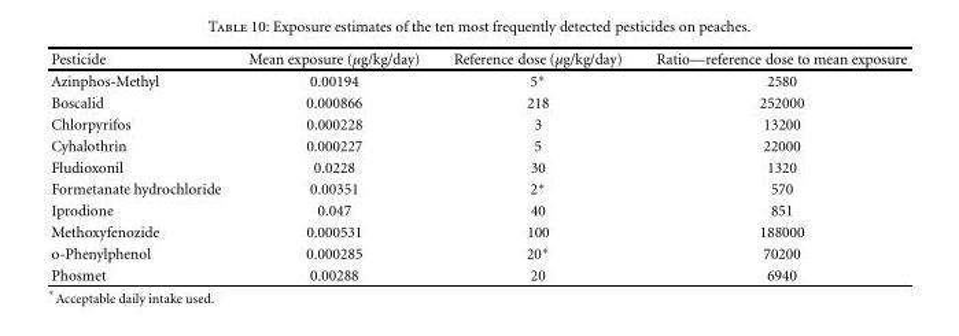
<table><thead><tr><td>Pesticide</td><td>Mean exposure (µg/kg/day)</td><td>Reference dose (µg/kg/day)</td><td>Ratio—reference dose to mean exposure</td></tr></thead><tbody><tr><td>Azinphos-Methyl</td><td>0.00194</td><td>5∗</td><td>2580</td></tr><tr><td>Boscalid</td><td>0.000866</td><td>218</td><td>252000</td></tr><tr><td>Chlorpyrifos</td><td>0.000228</td><td>3</td><td>13200</td></tr><tr><td>Cyhalothrin</td><td>0.000227</td><td>5</td><td>22000</td></tr><tr><td>Fludioxonil</td><td>0.0228</td><td>30</td><td>1320</td></tr><tr><td>Formetanate hydrochloride</td><td>0.00351</td><td>2∗</td><td>570</td></tr><tr><td>Iprodione</td><td>0.047</td><td>40</td><td>851</td></tr><tr><td>Methoxyfenozide</td><td>0.000531</td><td>100</td><td>188000</td></tr><tr><td>o-Phenylphenol</td><td>0.000285</td><td>20∗</td><td>70200</td></tr><tr><td>Phosmet</td><td>0.00288</td><td>20</td><td>6940</td></tr></tbody></table>